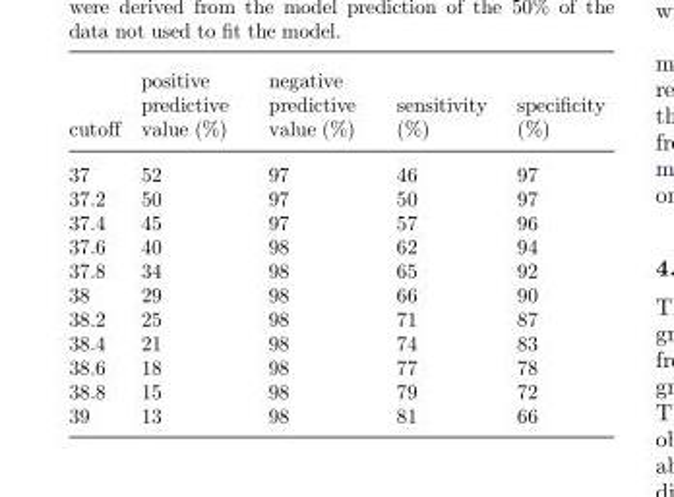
<table><thead><tr><td>cutoff</td><td>positive predictive value (%)</td><td>negative predictive value (%)</td><td>sensitivity (%)</td><td>specificity (%)</td></tr></thead><tbody><tr><td>37</td><td>52</td><td>97</td><td>46</td><td>97</td></tr><tr><td>37.2</td><td>50</td><td>97</td><td>50</td><td>97</td></tr><tr><td>37.4</td><td>45</td><td>97</td><td>57</td><td>96</td></tr><tr><td>37.6</td><td>40</td><td>98</td><td>62</td><td>94</td></tr><tr><td>37.8</td><td>34</td><td>98</td><td>65</td><td>92</td></tr><tr><td>38</td><td>29</td><td>98</td><td>66</td><td>90</td></tr><tr><td>38.2</td><td>25</td><td>98</td><td>71</td><td>87</td></tr><tr><td>38.4</td><td>21</td><td>98</td><td>74</td><td>83</td></tr><tr><td>38.6</td><td>18</td><td>98</td><td>77</td><td>78</td></tr><tr><td>38.8</td><td>15</td><td>98</td><td>79</td><td>72</td></tr><tr><td>39</td><td>13</td><td>98</td><td>81</td><td>66</td></tr></tbody></table>